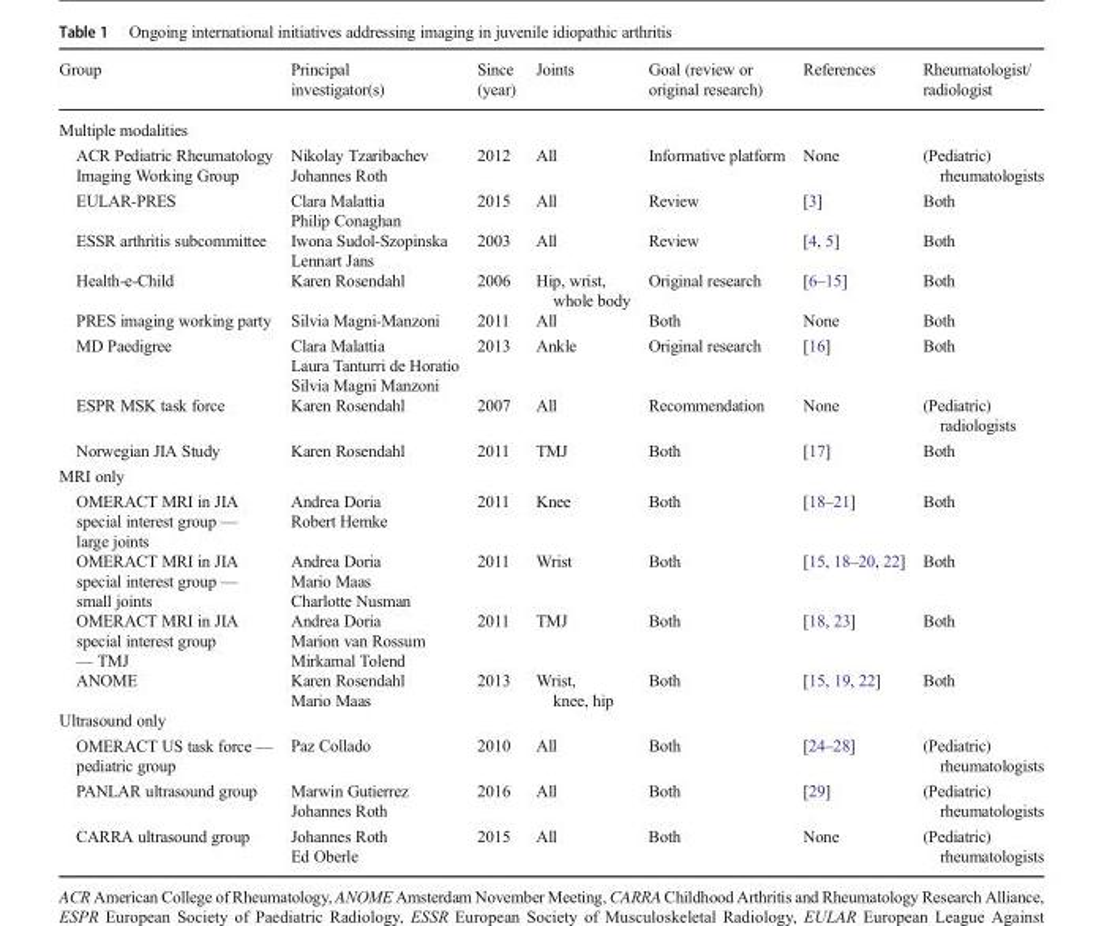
<table><thead><tr><td>Group</td><td>Principal investigator(s)</td><td>Since (year)</td><td>Joints</td><td>Goal (review or original research)</td><td>References</td><td>Rheumatologist/ radiologist</td></tr></thead><tbody><tr><td colspan="7">Multiple modalities</td></tr><tr><td>ACR Pediatric Rheumatology Imaging Working Group</td><td>Nikolay Tzaribachev Johannes Roth</td><td>2012</td><td>All</td><td>Informative platform</td><td>None</td><td>(Pediatric) rheumatologists</td></tr><tr><td>EULAR-PRES</td><td>Clara Malattia Philip Conaghan</td><td>2015</td><td>All</td><td>Review</td><td>[3]</td><td>Both</td></tr><tr><td>ESSR arthritis subcommittee</td><td>Iwona Sudol-Szopinska Lennart Jans</td><td>2003</td><td>All</td><td>Review</td><td>[4, 5]</td><td>Both</td></tr><tr><td>Health-e-Child</td><td>Karen Rosendahl</td><td>2006</td><td>Hip, wrist, whole body</td><td>Original research</td><td>[6–15]</td><td>Both</td></tr><tr><td>PRES imaging working party</td><td>Silvia Magni-Manzoni</td><td>2011</td><td>All</td><td>Both</td><td>None</td><td>Both</td></tr><tr><td>MD Paedigree</td><td>Clara Malattia Laura Tanturri de Horatio Silvia Magni Manzoni</td><td>2013</td><td>Ankle</td><td>Original research</td><td>[16]</td><td>Both</td></tr><tr><td>ESPR MSK task force</td><td>Karen Rosendahl</td><td>2007</td><td>All</td><td>Recommendation</td><td>None</td><td>(Pediatric) radiologists</td></tr><tr><td>Norwegian JIA Study</td><td>Karen Rosendahl</td><td>2011</td><td>TMJ</td><td>Both</td><td>[17]</td><td>Both</td></tr><tr><td colspan="7">MRI only</td></tr><tr><td>OMERACT MRI in JIA special interest group — large joints</td><td>Andrea Doria Robert Hemke</td><td>2011</td><td>Knee</td><td>Both</td><td>[18–21]</td><td>Both</td></tr><tr><td>OMERACT MRI in JIA special interest group — small joints</td><td>Andrea Doria Mario Maas Charlotte Nusman</td><td>2011</td><td>Wrist</td><td>Both</td><td>[15, 18–20, 22]</td><td>Both</td></tr><tr><td>OMERACT MRI in JIA special interest group — TMJ</td><td>Andrea Doria Marion van Rossum Mirkamal Tolend</td><td>2011</td><td>TMJ</td><td>Both</td><td>[18, 23]</td><td>Both</td></tr><tr><td>ANOME</td><td>Karen Rosendahl Mario Maas</td><td>2013</td><td>Wrist, knee, hip</td><td>Both</td><td>[15, 19, 22]</td><td>Both</td></tr><tr><td colspan="7">Ultrasound only</td></tr><tr><td>OMERACT US task force — pediatric group</td><td>Paz Collado</td><td>2010</td><td>All</td><td>Both</td><td>[24–28]</td><td>(Pediatric) rheumatologists</td></tr><tr><td>PANLAR ultrasound group</td><td>Marwin Gutierrez Johannes Roth</td><td>2016</td><td>All</td><td>Both</td><td>[29]</td><td>(Pediatric) rheumatologists</td></tr><tr><td>CARRA ultrasound group</td><td>Johannes Roth Ed Oberle</td><td>2015</td><td>All</td><td>Both</td><td>None</td><td>(Pediatric) rheumatologists</td></tr></tbody></table>